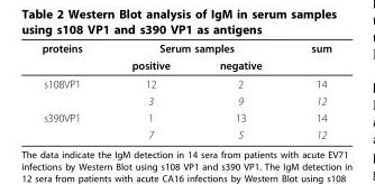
<table><thead><tr><td rowspan="2">proteins</td><td colspan="2">Serum samples</td><td rowspan="2">sum</td></tr><tr><td>positive</td><td>negative</td></tr></thead><tbody><tr><td rowspan="2">s108VP1</td><td>12</td><td>2</td><td>14</td></tr><tr><td>3</td><td>9</td><td>12</td></tr><tr><td rowspan="2">s390VP1</td><td>1</td><td>13</td><td>14</td></tr><tr><td>7</td><td>5</td><td>12</td></tr></tbody></table>